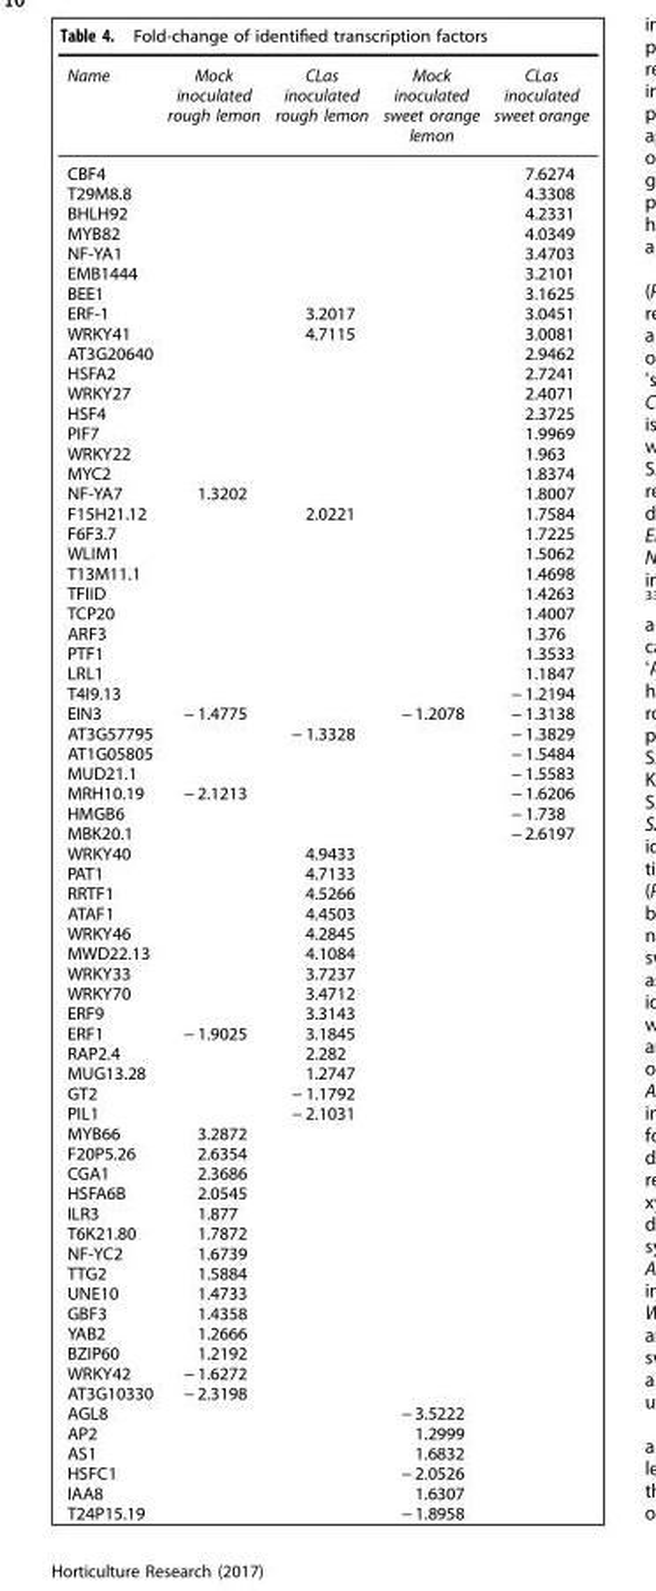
<table><thead><tr><td>Name</td><td>Mock inoculated rough lemon</td><td>CLas inoculated rough lemon</td><td>Mock inoculated sweet orange lemon</td><td>CLas inoculated sweet orange</td></tr></thead><tbody><tr><td>CBF4</td><td></td><td></td><td></td><td>7.6274</td></tr><tr><td>T29M8.8</td><td></td><td></td><td></td><td>4.3308</td></tr><tr><td>BHLH92</td><td></td><td></td><td></td><td>4.2331</td></tr><tr><td>MYB82</td><td></td><td></td><td></td><td>4.0349</td></tr><tr><td>NF-YA1</td><td></td><td></td><td></td><td>3.4703</td></tr><tr><td>EMB1444</td><td></td><td></td><td></td><td>3.2101</td></tr><tr><td>BEE1</td><td></td><td></td><td></td><td>3.1625</td></tr><tr><td>ERF-1</td><td></td><td>3.2017</td><td></td><td>3.0451</td></tr><tr><td>WRKY41</td><td></td><td>4.7115</td><td></td><td>3.0081</td></tr><tr><td>AT3G20640</td><td></td><td></td><td></td><td>2.9462</td></tr><tr><td>HSFA2</td><td></td><td></td><td></td><td>2.7241</td></tr><tr><td>WRKY27</td><td></td><td></td><td></td><td>2.4071</td></tr><tr><td>HSF4</td><td></td><td></td><td></td><td>2.3725</td></tr><tr><td>PIF7</td><td></td><td></td><td></td><td>1.9969</td></tr><tr><td>WRKY22</td><td></td><td></td><td></td><td>1.963</td></tr><tr><td>MYC2</td><td></td><td></td><td></td><td>1.8374</td></tr><tr><td>NF-YA7</td><td>1.3202</td><td></td><td></td><td>1.8007</td></tr><tr><td>F15H21.12</td><td></td><td>2.0221</td><td></td><td>1.7584</td></tr><tr><td>F6F3.7</td><td></td><td></td><td></td><td>1.7225</td></tr><tr><td>WLIM1</td><td></td><td></td><td></td><td>1.5062</td></tr><tr><td>T13M11.1</td><td></td><td></td><td></td><td>1.4698</td></tr><tr><td>TFIID</td><td></td><td></td><td></td><td>1.4263</td></tr><tr><td>TCP20</td><td></td><td></td><td></td><td>1.4007</td></tr><tr><td>ARF3</td><td></td><td></td><td></td><td>1.376</td></tr><tr><td>PTF1</td><td></td><td></td><td></td><td>1.3533</td></tr><tr><td>LRL1</td><td></td><td></td><td></td><td>1.1847</td></tr><tr><td>T4I9.13</td><td></td><td></td><td></td><td>− 1.2194</td></tr><tr><td>EIN3</td><td>− 1.4775</td><td></td><td>− 1.2078</td><td>− 1.3138</td></tr><tr><td>AT3G57795</td><td></td><td>− 1.3328</td><td></td><td>− 1.3829</td></tr><tr><td>AT1G05805</td><td></td><td></td><td></td><td>− 1.5484</td></tr><tr><td>MUD21.1</td><td></td><td></td><td></td><td>− 1.5583</td></tr><tr><td>MRH10.19</td><td>− 2.1213</td><td></td><td></td><td>− 1.6206</td></tr><tr><td>HMGB6</td><td></td><td></td><td></td><td>− 1.738</td></tr><tr><td>MBK20.1</td><td></td><td></td><td></td><td>− 2.6197</td></tr><tr><td>WRKY40</td><td></td><td>4.9433</td><td></td><td></td></tr><tr><td>PAT1</td><td></td><td>4.7133</td><td></td><td></td></tr><tr><td>RRTF1</td><td></td><td>4.5266</td><td></td><td></td></tr><tr><td>ATAF1</td><td></td><td>4.4503</td><td></td><td></td></tr><tr><td>WRKY46</td><td></td><td>4.2845</td><td></td><td></td></tr><tr><td>MWD22.13</td><td></td><td>4.1084</td><td></td><td></td></tr><tr><td>WRKY33</td><td></td><td>3.7237</td><td></td><td></td></tr><tr><td>WRKY70</td><td></td><td>3.4712</td><td></td><td></td></tr><tr><td>ERF9</td><td></td><td>3.3143</td><td></td><td></td></tr><tr><td>ERF1</td><td>− 1.9025</td><td>3.1845</td><td></td><td></td></tr><tr><td>RAP2.4</td><td></td><td>2.282</td><td></td><td></td></tr><tr><td>MUG13.28</td><td></td><td>1.2747</td><td></td><td></td></tr><tr><td>GT2</td><td></td><td>− 1.1792</td><td></td><td></td></tr><tr><td>PIL1</td><td></td><td>− 2.1031</td><td></td><td></td></tr><tr><td>MYB66</td><td>3.2872</td><td></td><td></td><td></td></tr><tr><td>F20P5.26</td><td>2.6354</td><td></td><td></td><td></td></tr><tr><td>CGA1</td><td>2.3686</td><td></td><td></td><td></td></tr><tr><td>HSFA6B</td><td>2.0545</td><td></td><td></td><td></td></tr><tr><td>ILR3</td><td>1.877</td><td></td><td></td><td></td></tr><tr><td>T6K21.80</td><td>1.7872</td><td></td><td></td><td></td></tr><tr><td>NF-YC2</td><td>1.6739</td><td></td><td></td><td></td></tr><tr><td>TTG2</td><td>1.5884</td><td></td><td></td><td></td></tr><tr><td>UNE10</td><td>1.4733</td><td></td><td></td><td></td></tr><tr><td>GBF3</td><td>1.4358</td><td></td><td></td><td></td></tr><tr><td>YAB2</td><td>1.2666</td><td></td><td></td><td></td></tr><tr><td>BZIP60</td><td>1.2192</td><td></td><td></td><td></td></tr><tr><td>WRKY42</td><td>− 1.6272</td><td></td><td></td><td></td></tr><tr><td>AT3G10330</td><td>− 2.3198</td><td></td><td></td><td></td></tr><tr><td>AGL8</td><td></td><td></td><td>− 3.5222</td><td></td></tr><tr><td>AP2</td><td></td><td></td><td>1.2999</td><td></td></tr><tr><td>AS1</td><td></td><td></td><td>1.6832</td><td></td></tr><tr><td>HSFC1</td><td></td><td></td><td>− 2.0526</td><td></td></tr><tr><td>IAA8</td><td></td><td></td><td>1.6307</td><td></td></tr><tr><td>T24P15.19</td><td></td><td></td><td>− 1.8958</td><td></td></tr></tbody></table>